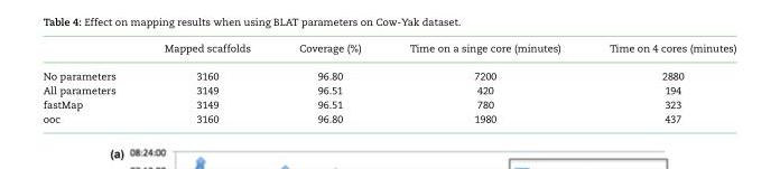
<table><thead><tr><td></td><td>Mapped scaffolds</td><td>Coverage (%)</td><td>Time on a singe core (minutes)</td><td>Time on 4 cores (minutes)</td></tr></thead><tbody><tr><td>No parameters</td><td>3160</td><td>96.80</td><td>7200</td><td>2880</td></tr><tr><td>All parameters</td><td>3149</td><td>96.51</td><td>420</td><td>194</td></tr><tr><td>fastMap</td><td>3149</td><td>96.51</td><td>780</td><td>323</td></tr><tr><td>ooc</td><td>3160</td><td>96.80</td><td>1980</td><td>437</td></tr></tbody></table>